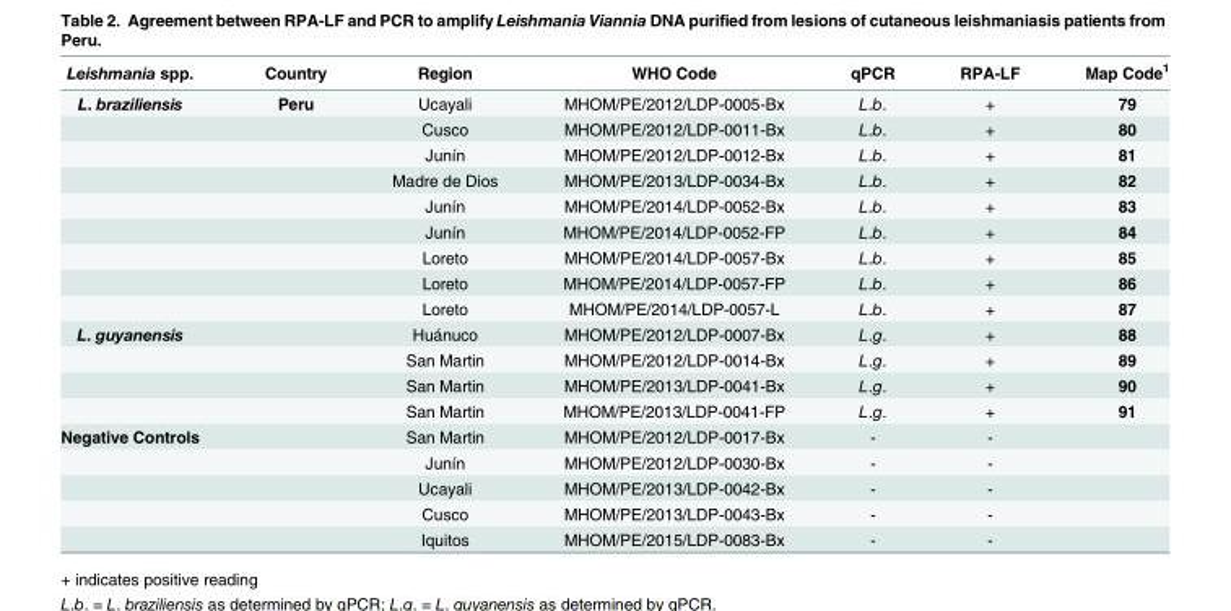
<table><thead><tr><td>Leishmania spp.</td><td>Country</td><td>Region</td><td>WHO Code</td><td>qPCR</td><td>RPA-LF</td><td>Map Code<sup>1</sup></td></tr></thead><tbody><tr><td rowspan="9">L. braziliensis</td><td>Peru</td><td>Ucayali</td><td>MHOM/PE/2012/LDP-0005-Bx</td><td>L.b.</td><td>+</td><td>79</td></tr><tr><td></td><td>Cusco</td><td>MHOM/PE/2012/LDP-0011-Bx</td><td>L.b.</td><td>+</td><td>80</td></tr><tr><td></td><td>Junín</td><td>MHOM/PE/2012/LDP-0012-Bx</td><td>L.b.</td><td>+</td><td>81</td></tr><tr><td></td><td>Madre de Dios</td><td>MHOM/PE/2013/LDP-0034-Bx</td><td>L.b.</td><td>+</td><td>82</td></tr><tr><td></td><td>Junín</td><td>MHOM/PE/2014/LDP-0052-Bx</td><td>L.b.</td><td>+</td><td>83</td></tr><tr><td></td><td>Junín</td><td>MHOM/PE/2014/LDP-0052-FP</td><td>L.b.</td><td>+</td><td>84</td></tr><tr><td></td><td>Loreto</td><td>MHOM/PE/2014/LDP-0057-Bx</td><td>L.b.</td><td>+</td><td>85</td></tr><tr><td></td><td>Loreto</td><td>MHOM/PE/2014/LDP-0057-FP</td><td>L.b.</td><td>+</td><td>86</td></tr><tr><td></td><td>Loreto</td><td>MHOM/PE/2014/LDP-0057-L</td><td>L.b.</td><td>+</td><td>87</td></tr><tr><td rowspan="4">L. guyanensis</td><td></td><td>Huánuco</td><td>MHOM/PE/2012/LDP-0007-Bx</td><td>L.g.</td><td>+</td><td>88</td></tr><tr><td></td><td>San Martin</td><td>MHOM/PE/2012/LDP-0014-Bx</td><td>L.g.</td><td>+</td><td>89</td></tr><tr><td></td><td>San Martin</td><td>MHOM/PE/2013/LDP-0041-Bx</td><td>L.g.</td><td>+</td><td>90</td></tr><tr><td></td><td>San Martin</td><td>MHOM/PE/2013/LDP-0041-FP</td><td>L.g.</td><td>+</td><td>91</td></tr><tr><td rowspan="5">Negative Controls</td><td></td><td>San Martin</td><td>MHOM/PE/2012/LDP-0017-Bx</td><td>-</td><td>-</td><td></td></tr><tr><td></td><td>Junín</td><td>MHOM/PE/2012/LDP-0030-Bx</td><td>-</td><td>-</td><td></td></tr><tr><td></td><td>Ucayali</td><td>MHOM/PE/2013/LDP-0042-Bx</td><td>-</td><td>-</td><td></td></tr><tr><td></td><td>Cusco</td><td>MHOM/PE/2013/LDP-0043-Bx</td><td>-</td><td>-</td><td></td></tr><tr><td></td><td>Iquitos</td><td>MHOM/PE/2015/LDP-0083-Bx</td><td>-</td><td>-</td><td></td></tr></tbody></table>